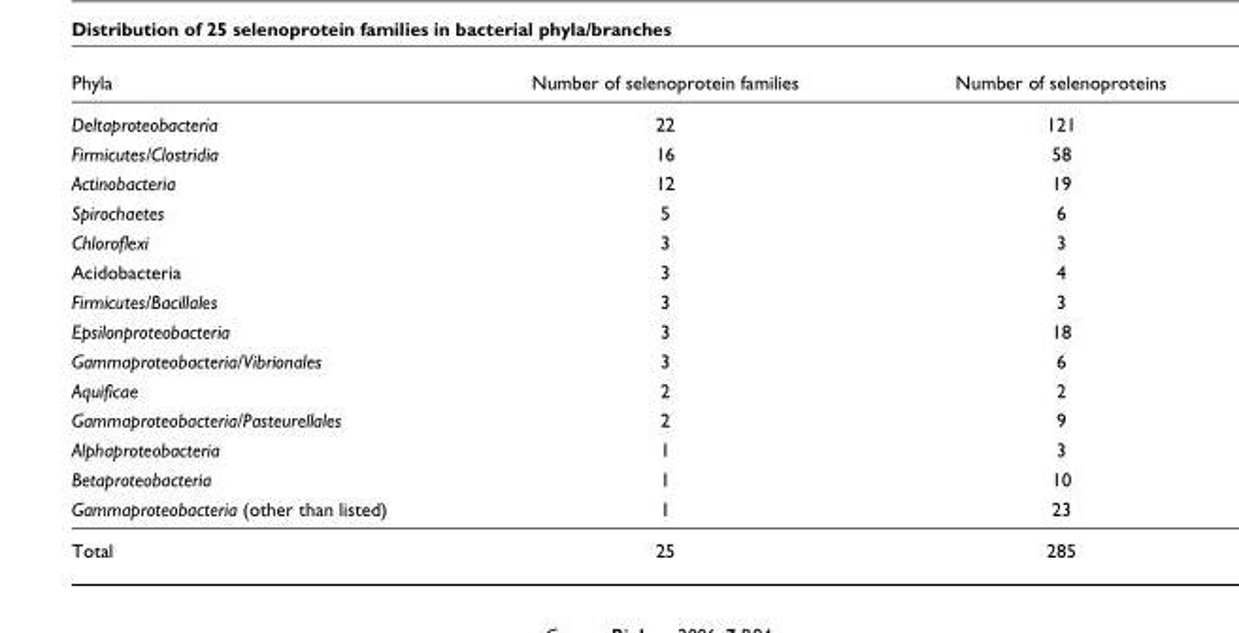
<table><thead><tr><td>Phyla</td><td>Number of selenoprotein families</td><td>Number of selenoproteins</td></tr></thead><tbody><tr><td>Deltaproteobacteria</td><td>22</td><td>121</td></tr><tr><td>Firmicutes/Clostridia</td><td>16</td><td>58</td></tr><tr><td>Actinobacteria</td><td>12</td><td>19</td></tr><tr><td>Spirochaetes</td><td>5</td><td>6</td></tr><tr><td>Chloroflexi</td><td>3</td><td>3</td></tr><tr><td>Acidobacteria</td><td>3</td><td>4</td></tr><tr><td>Firmicutes/Bacillales</td><td>3</td><td>3</td></tr><tr><td>Epsilonproteobacteria</td><td>3</td><td>18</td></tr><tr><td>Gammaproteobacteria/Vibrionales</td><td>3</td><td>6</td></tr><tr><td>Aquificae</td><td>2</td><td>2</td></tr><tr><td>Gammaproteobacteria/Pasteurellales</td><td>2</td><td>9</td></tr><tr><td>Alphaproteobacteria</td><td>1</td><td>3</td></tr><tr><td>Betaproteobacteria</td><td>1</td><td>10</td></tr><tr><td>Gammaproteobacteria (other than listed)</td><td>1</td><td>23</td></tr><tr><td>Total</td><td>25</td><td>285</td></tr></tbody></table>